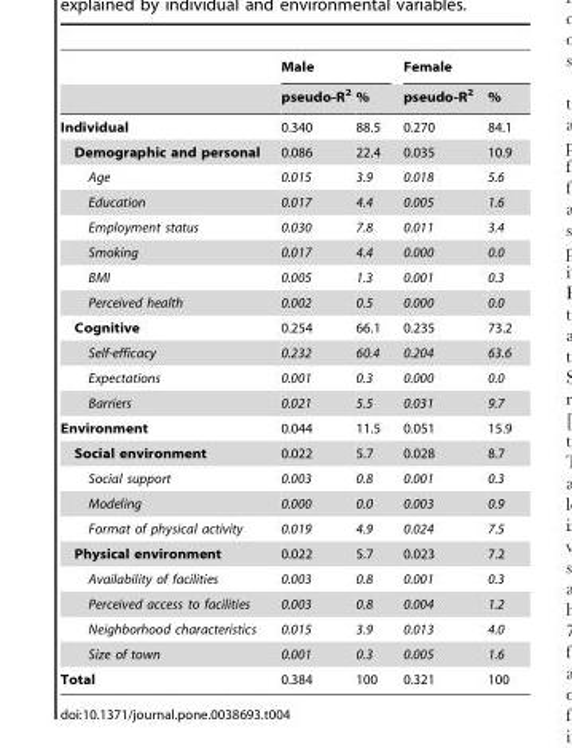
<table><thead><tr><td rowspan="2"></td><td colspan="2">Male</td><td colspan="2">Female</td></tr><tr><td>pseudo-R<sup>2</sup></td><td>%</td><td>pseudo-R<sup>2</sup></td><td>%</td></tr></thead><tbody><tr><td>Individual</td><td>0.340</td><td>88.5</td><td>0.270</td><td>84.1</td></tr><tr><td>Demographic and personal</td><td>0.086</td><td>22.4</td><td>0.035</td><td>10.9</td></tr><tr><td>Age</td><td>0.015</td><td>3.9</td><td>0.018</td><td>5.6</td></tr><tr><td>Education</td><td>0.017</td><td>4.4</td><td>0.005</td><td>1.6</td></tr><tr><td>Employment status</td><td>0.030</td><td>7.8</td><td>0.011</td><td>3.4</td></tr><tr><td>Smoking</td><td>0.017</td><td>4.4</td><td>0.000</td><td>0.0</td></tr><tr><td>BMI</td><td>0.005</td><td>1.3</td><td>0.001</td><td>0.3</td></tr><tr><td>Perceived health</td><td>0.002</td><td>0.5</td><td>0.000</td><td>0.0</td></tr><tr><td>Cognitive</td><td>0.254</td><td>66.1</td><td>0.235</td><td>73.2</td></tr><tr><td>Self-efficacy</td><td>0.232</td><td>60.4</td><td>0.204</td><td>63.6</td></tr><tr><td>Expectations</td><td>0.001</td><td>0.3</td><td>0.000</td><td>0.0</td></tr><tr><td>Barriers</td><td>0.021</td><td>5.5</td><td>0.031</td><td>9.7</td></tr><tr><td>Environment</td><td>0.044</td><td>11.5</td><td>0.051</td><td>15.9</td></tr><tr><td>Social environment</td><td>0.022</td><td>5.7</td><td>0.028</td><td>8.7</td></tr><tr><td>Social support</td><td>0.003</td><td>0.8</td><td>0.001</td><td>0.3</td></tr><tr><td>Modeling</td><td>0.000</td><td>0.0</td><td>0.003</td><td>0.9</td></tr><tr><td>Format of physical activity</td><td>0.019</td><td>4.9</td><td>0.024</td><td>7.5</td></tr><tr><td>Physical environment</td><td>0.022</td><td>5.7</td><td>0.023</td><td>7.2</td></tr><tr><td>Availability of facilities</td><td>0.003</td><td>0.8</td><td>0.001</td><td>0.3</td></tr><tr><td>Perceived access to facilities</td><td>0.003</td><td>0.8</td><td>0.004</td><td>1.2</td></tr><tr><td>Neighborhood characteristics</td><td>0.015</td><td>3.9</td><td>0.013</td><td>4.0</td></tr><tr><td>Size of town</td><td>0.001</td><td>0.3</td><td>0.005</td><td>1.6</td></tr><tr><td>Total</td><td>0.384</td><td>100</td><td>0.321</td><td>100</td></tr></tbody></table>